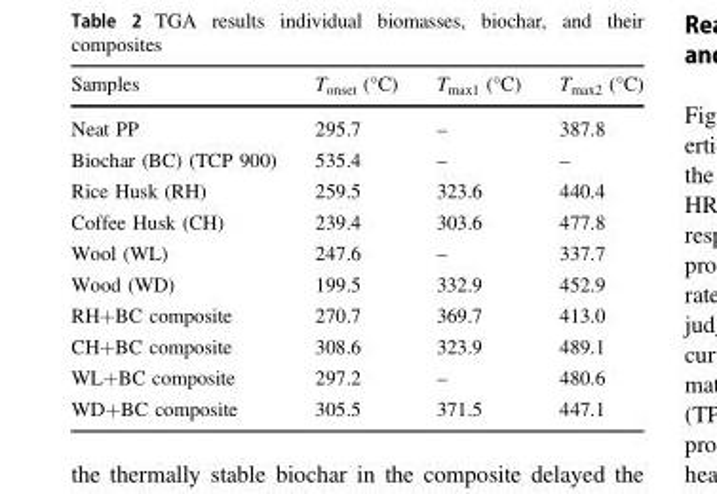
<table><thead><tr><td>Samples</td><td>T<sub>onset</sub> (°C)</td><td>T<sub>max1</sub> (°C)</td><td>T<sub>max2</sub> (°C)</td></tr></thead><tbody><tr><td>Neat PP</td><td>295.7</td><td>–</td><td>387.8</td></tr><tr><td>Biochar (BC) (TCP 900)</td><td>535.4</td><td>–</td><td>–</td></tr><tr><td>Rice Husk (RH)</td><td>259.5</td><td>323.6</td><td>440.4</td></tr><tr><td>Coffee Husk (CH)</td><td>239.4</td><td>303.6</td><td>477.8</td></tr><tr><td>Wool (WL)</td><td>247.6</td><td>–</td><td>337.7</td></tr><tr><td>Wood (WD)</td><td>199.5</td><td>332.9</td><td>452.9</td></tr><tr><td>RH+BC composite</td><td>270.7</td><td>369.7</td><td>413.0</td></tr><tr><td>CH+BC composite</td><td>308.6</td><td>323.9</td><td>489.1</td></tr><tr><td>WL+BC composite</td><td>297.2</td><td>–</td><td>480.6</td></tr><tr><td>WD+BC composite</td><td>305.5</td><td>371.5</td><td>447.1</td></tr></tbody></table>